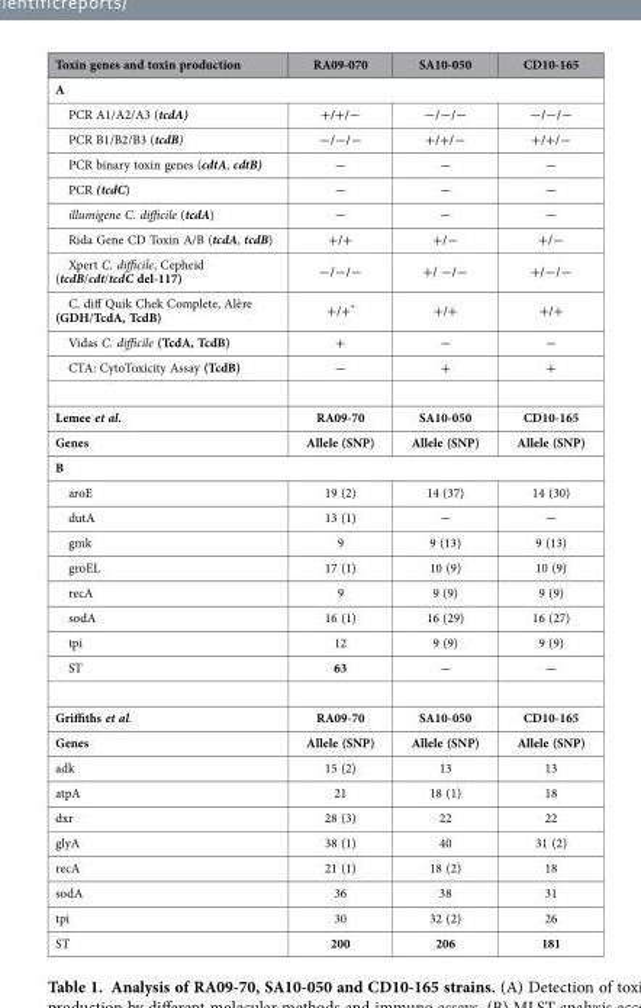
<table><thead><tr><td>Toxin genes and toxin production</td><td>RA09-070</td><td>SA10-050</td><td>CD10-165</td></tr></thead><tbody><tr><td colspan="4">A</td></tr><tr><td>PCR A1/A2/A3 (tcdA)</td><td>+/+/−</td><td>−/−/−</td><td>−/−/−</td></tr><tr><td>PCR B1/B2/B3 (tcdB)</td><td>−/−/−</td><td>+/+/−</td><td>+/+/−</td></tr><tr><td>PCR binary toxin genes (cdtA, cdtB)</td><td>−</td><td>−</td><td>−</td></tr><tr><td>PCR (tcdC)</td><td>−</td><td>−</td><td>−</td></tr><tr><td>illumigene C. difficile (tcdA)</td><td>−</td><td>−</td><td>−</td></tr><tr><td>Rida Gene CD Toxin A/B (tcdA, tcdB)</td><td>+/+</td><td>+/−</td><td>+/−</td></tr><tr><td>Xpert C. difficile, Cepheid (tcdB/cdt/tcdC del-117)</td><td>−/−/−</td><td>+/ −/−</td><td>+/−/−</td></tr><tr><td>C. diff Quik Chek Complete, Alère (GDH/TcdA, TcdB)</td><td>+/+*</td><td>+/+</td><td>+/+</td></tr><tr><td>Vidas C. difficile (TcdA, TcdB)</td><td>+</td><td>−</td><td>−</td></tr><tr><td>CTA: CytoToxicity Assay (TcdB)</td><td>−</td><td>+</td><td>+</td></tr><tr><td>Lemee et al.</td><td>RA09-70</td><td>SA10-050</td><td>CD10-165</td></tr><tr><td>Genes</td><td>Allele (SNP)</td><td>Allele (SNP)</td><td>Allele (SNP)</td></tr><tr><td colspan="4">B</td></tr><tr><td>aroE</td><td>19 (2)</td><td>14 (37)</td><td>14 (30)</td></tr><tr><td>dutA</td><td>13 (1)</td><td>−</td><td>−</td></tr><tr><td>gmk</td><td>9</td><td>9 (13)</td><td>9 (13)</td></tr><tr><td>groEL</td><td>17 (1)</td><td>10 (9)</td><td>10 (9)</td></tr><tr><td>recA</td><td>9</td><td>9 (9)</td><td>9 (9)</td></tr><tr><td>sodA</td><td>16 (1)</td><td>16 (29)</td><td>16 (27)</td></tr><tr><td>tpi</td><td>12</td><td>9 (9)</td><td>9 (9)</td></tr><tr><td>ST</td><td>63</td><td>−</td><td>−</td></tr><tr><td>Griffiths et al.</td><td>RA09-70</td><td>SA10-050</td><td>CD10-165</td></tr><tr><td>Genes</td><td>Allele (SNP)</td><td>Allele (SNP)</td><td>Allele (SNP)</td></tr><tr><td>adk</td><td>15 (2)</td><td>13</td><td>13</td></tr><tr><td>atpA</td><td>21</td><td>18 (1)</td><td>18</td></tr><tr><td>dxr</td><td>28 (3)</td><td>22</td><td>22</td></tr><tr><td>glyA</td><td>38 (1)</td><td>40</td><td>31 (2)</td></tr><tr><td>recA</td><td>21 (1)</td><td>18 (2)</td><td>18</td></tr><tr><td>sodA</td><td>36</td><td>38</td><td>31</td></tr><tr><td>tpi</td><td>30</td><td>32 (2)</td><td>26</td></tr><tr><td>ST</td><td>200</td><td>206</td><td>181</td></tr></tbody></table>